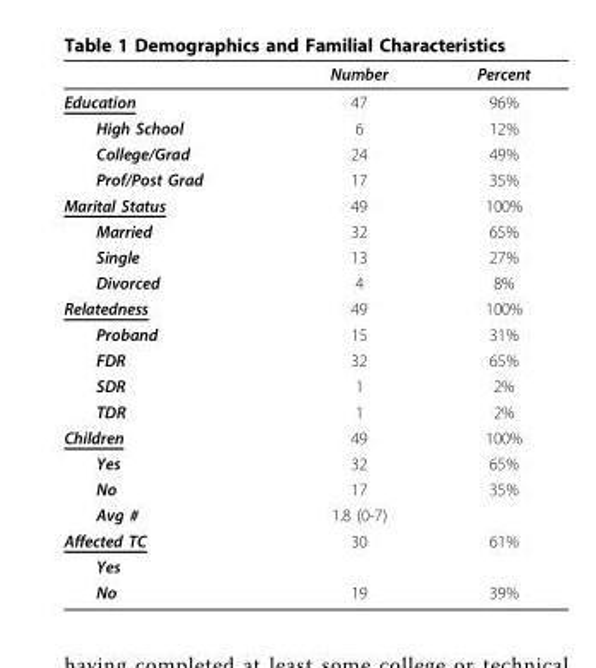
<table><thead><tr><td></td><td>Number</td><td>Percent</td></tr></thead><tbody><tr><td>Education</td><td>47</td><td>96%</td></tr><tr><td>High School</td><td>6</td><td>12%</td></tr><tr><td>College/Grad</td><td>24</td><td>49%</td></tr><tr><td>Prof/Post Grad</td><td>17</td><td>35%</td></tr><tr><td>Marital Status</td><td>49</td><td>100%</td></tr><tr><td>Married</td><td>32</td><td>65%</td></tr><tr><td>Single</td><td>13</td><td>27%</td></tr><tr><td>Divorced</td><td>4</td><td>8%</td></tr><tr><td>Relatedness</td><td>49</td><td>100%</td></tr><tr><td>Proband</td><td>15</td><td>31%</td></tr><tr><td>FDR</td><td>32</td><td>65%</td></tr><tr><td>SDR</td><td>1</td><td>2%</td></tr><tr><td>TDR</td><td>1</td><td>2%</td></tr><tr><td>Children</td><td>49</td><td>100%</td></tr><tr><td>Yes</td><td>32</td><td>65%</td></tr><tr><td>No</td><td>17</td><td>35%</td></tr><tr><td>Avg #</td><td>1.8 (0-7)</td><td></td></tr><tr><td>Affected TC</td><td>30</td><td>61%</td></tr><tr><td colspan="3">Yes</td></tr><tr><td>No</td><td>19</td><td>39%</td></tr></tbody></table>